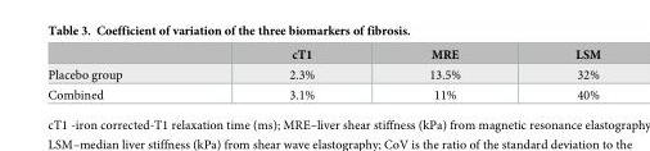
<table><thead><tr><td></td><td>cT1</td><td>MRE</td><td>LSM</td></tr></thead><tbody><tr><td>Placebo group</td><td>2.3%</td><td>13.5%</td><td>32%</td></tr><tr><td>Combined</td><td>3.1%</td><td>11%</td><td>40%</td></tr></tbody></table>